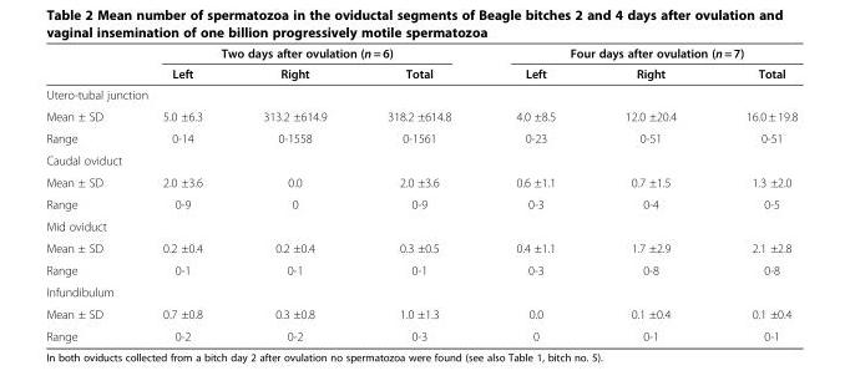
<table><thead><tr><td rowspan="2"></td><td colspan="3">Two days after ovulation (n = 6)</td><td colspan="3">Four days after ovulation (n = 7)</td></tr><tr><td>Left</td><td>Right</td><td>Total</td><td>Left</td><td>Right</td><td>Total</td></tr></thead><tbody><tr><td colspan="7">Utero-tubal junction</td></tr><tr><td>Mean ± SD</td><td>5.0 ±6.3</td><td>313.2 ±614.9</td><td>318.2 ±614.8</td><td>4.0 ±8.5</td><td>12.0 ±20.4</td><td>16.0 ± 19.8</td></tr><tr><td>Range</td><td>0-14</td><td>0-1558</td><td>0-1561</td><td>0-23</td><td>0-51</td><td>0-51</td></tr><tr><td colspan="7">Caudal oviduct</td></tr><tr><td>Mean ± SD</td><td>2.0 ±3.6</td><td>0.0</td><td>2.0 ±3.6</td><td>0.6 ±1.1</td><td>0.7 ±1.5</td><td>1.3 ±2.0</td></tr><tr><td>Range</td><td>0-9</td><td>0</td><td>0-9</td><td>0-3</td><td>0-4</td><td>0-5</td></tr><tr><td colspan="7">Mid oviduct</td></tr><tr><td>Mean ± SD</td><td>0.2 ±0.4</td><td>0.2 ±0.4</td><td>0.3 ±0.5</td><td>0.4 ±1.1</td><td>1.7 ±2.9</td><td>2.1 ±2.8</td></tr><tr><td>Range</td><td>0-1</td><td>0-1</td><td>0-1</td><td>0-3</td><td>0-8</td><td>0-8</td></tr><tr><td colspan="7">Infundibulum</td></tr><tr><td>Mean ± SD</td><td>0.7 ±0.8</td><td>0.3 ±0.8</td><td>1.0 ±1.3</td><td>0.0</td><td>0.1 ±0.4</td><td>0.1 ±0.4</td></tr><tr><td>Range</td><td>0-2</td><td>0-2</td><td>0-3</td><td>0</td><td>0-1</td><td>0-1</td></tr></tbody></table>